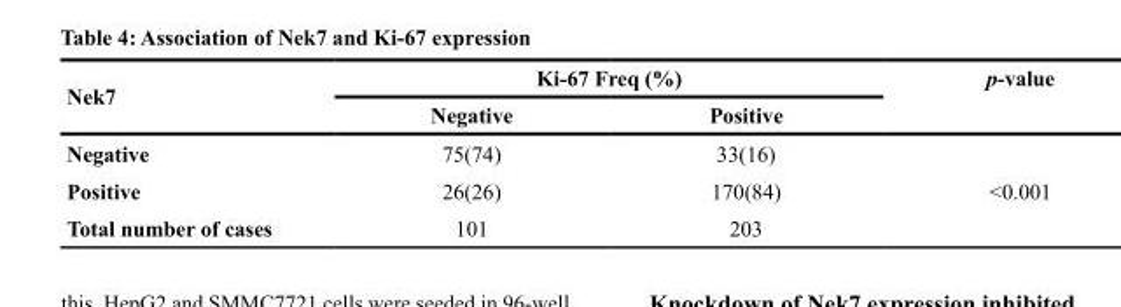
<table><thead><tr><td rowspan="2">Nek7</td><td colspan="2">Ki-67 Freq (%)</td><td rowspan="2">p-value</td></tr><tr><td>Negative</td><td>Positive</td></tr></thead><tbody><tr><td>Negative</td><td>75(74)</td><td>33(16)</td><td></td></tr><tr><td>Positive</td><td>26(26)</td><td>170(84)</td><td>&lt;0.001</td></tr><tr><td>Total number of cases</td><td>101</td><td>203</td><td></td></tr></tbody></table>